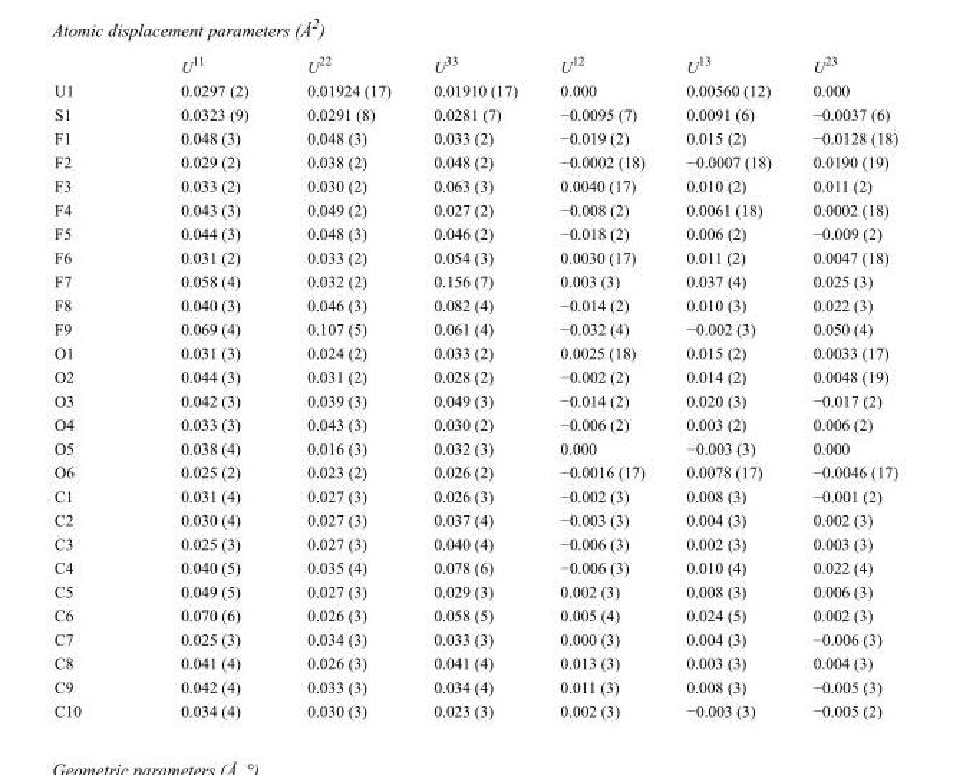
<table><thead><tr><td></td><td>U<sup>11</sup></td><td>U<sup>22</sup></td><td>U<sup>33</sup></td><td>U<sup>12</sup></td><td>U<sup>13</sup></td><td>U<sup>23</sup></td></tr></thead><tbody><tr><td>U1</td><td>0.0297 (2)</td><td>0.01924 (17)</td><td>0.01910 (17)</td><td>0.000</td><td>0.00560 (12)</td><td>0.000</td></tr><tr><td>S1</td><td>0.0323 (9)</td><td>0.0291 (8)</td><td>0.0281 (7)</td><td>−0.0095 (7)</td><td>0.0091 (6)</td><td>−0.0037 (6)</td></tr><tr><td>F1</td><td>0.048 (3)</td><td>0.048 (3)</td><td>0.033 (2)</td><td>−0.019 (2)</td><td>0.015 (2)</td><td>−0.0128 (18)</td></tr><tr><td>F2</td><td>0.029 (2)</td><td>0.038 (2)</td><td>0.048 (2)</td><td>−0.0002 (18)</td><td>−0.0007 (18)</td><td>0.0190 (19)</td></tr><tr><td>F3</td><td>0.033 (2)</td><td>0.030 (2)</td><td>0.063 (3)</td><td>0.0040 (17)</td><td>0.010 (2)</td><td>0.011 (2)</td></tr><tr><td>F4</td><td>0.043 (3)</td><td>0.049 (2)</td><td>0.027 (2)</td><td>−0.008 (2)</td><td>0.0061 (18)</td><td>0.0002 (18)</td></tr><tr><td>F5</td><td>0.044 (3)</td><td>0.048 (3)</td><td>0.046 (2)</td><td>−0.018 (2)</td><td>0.006 (2)</td><td>−0.009 (2)</td></tr><tr><td>F6</td><td>0.031 (2)</td><td>0.033 (2)</td><td>0.054 (3)</td><td>0.0030 (17)</td><td>0.011 (2)</td><td>0.0047 (18)</td></tr><tr><td>F7</td><td>0.058 (4)</td><td>0.032 (2)</td><td>0.156 (7)</td><td>0.003 (3)</td><td>0.037 (4)</td><td>0.025 (3)</td></tr><tr><td>F8</td><td>0.040 (3)</td><td>0.046 (3)</td><td>0.082 (4)</td><td>−0.014 (2)</td><td>0.010 (3)</td><td>0.022 (3)</td></tr><tr><td>F9</td><td>0.069 (4)</td><td>0.107 (5)</td><td>0.061 (4)</td><td>−0.032 (4)</td><td>−0.002 (3)</td><td>0.050 (4)</td></tr><tr><td>O1</td><td>0.031 (3)</td><td>0.024 (2)</td><td>0.033 (2)</td><td>0.0025 (18)</td><td>0.015 (2)</td><td>0.0033 (17)</td></tr><tr><td>O2</td><td>0.044 (3)</td><td>0.031 (2)</td><td>0.028 (2)</td><td>−0.002 (2)</td><td>0.014 (2)</td><td>0.0048 (19)</td></tr><tr><td>O3</td><td>0.042 (3)</td><td>0.039 (3)</td><td>0.049 (3)</td><td>−0.014 (2)</td><td>0.020 (3)</td><td>−0.017 (2)</td></tr><tr><td>O4</td><td>0.033 (3)</td><td>0.043 (3)</td><td>0.030 (2)</td><td>−0.006 (2)</td><td>0.003 (2)</td><td>0.006 (2)</td></tr><tr><td>O5</td><td>0.038 (4)</td><td>0.016 (3)</td><td>0.032 (3)</td><td>0.000</td><td>−0.003 (3)</td><td>0.000</td></tr><tr><td>O6</td><td>0.025 (2)</td><td>0.023 (2)</td><td>0.026 (2)</td><td>−0.0016 (17)</td><td>0.0078 (17)</td><td>−0.0046 (17)</td></tr><tr><td>C1</td><td>0.031 (4)</td><td>0.027 (3)</td><td>0.026 (3)</td><td>−0.002 (3)</td><td>0.008 (3)</td><td>−0.001 (2)</td></tr><tr><td>C2</td><td>0.030 (4)</td><td>0.027 (3)</td><td>0.037 (4)</td><td>−0.003 (3)</td><td>0.004 (3)</td><td>0.002 (3)</td></tr><tr><td>C3</td><td>0.025 (3)</td><td>0.027 (3)</td><td>0.040 (4)</td><td>−0.006 (3)</td><td>0.002 (3)</td><td>0.003 (3)</td></tr><tr><td>C4</td><td>0.040 (5)</td><td>0.035 (4)</td><td>0.078 (6)</td><td>−0.006 (3)</td><td>0.010 (4)</td><td>0.022 (4)</td></tr><tr><td>C5</td><td>0.049 (5)</td><td>0.027 (3)</td><td>0.029 (3)</td><td>0.002 (3)</td><td>0.008 (3)</td><td>0.006 (3)</td></tr><tr><td>C6</td><td>0.070 (6)</td><td>0.026 (3)</td><td>0.058 (5)</td><td>0.005 (4)</td><td>0.024 (5)</td><td>0.002 (3)</td></tr><tr><td>C7</td><td>0.025 (3)</td><td>0.034 (3)</td><td>0.033 (3)</td><td>0.000 (3)</td><td>0.004 (3)</td><td>−0.006 (3)</td></tr><tr><td>C8</td><td>0.041 (4)</td><td>0.026 (3)</td><td>0.041 (4)</td><td>0.013 (3)</td><td>0.003 (3)</td><td>0.004 (3)</td></tr><tr><td>C9</td><td>0.042 (4)</td><td>0.033 (3)</td><td>0.034 (4)</td><td>0.011 (3)</td><td>0.008 (3)</td><td>−0.005 (3)</td></tr><tr><td>C10</td><td>0.034 (4)</td><td>0.030 (3)</td><td>0.023 (3)</td><td>0.002 (3)</td><td>−0.003 (3)</td><td>−0.005 (2)</td></tr></tbody></table>